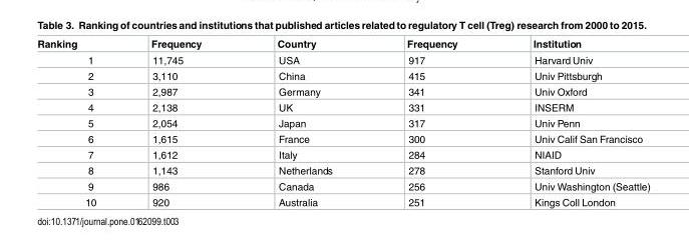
<table><thead><tr><td>Ranking</td><td>Frequency</td><td>Country</td><td>Frequency</td><td>Institution</td></tr></thead><tbody><tr><td>1</td><td>11,745</td><td>USA</td><td>917</td><td>Harvard Univ</td></tr><tr><td>2</td><td>3,110</td><td>China</td><td>415</td><td>Univ Pittsburgh</td></tr><tr><td>3</td><td>2,987</td><td>Germany</td><td>341</td><td>Univ Oxford</td></tr><tr><td>4</td><td>2,138</td><td>UK</td><td>331</td><td>INSERM</td></tr><tr><td>5</td><td>2,054</td><td>Japan</td><td>317</td><td>Univ Penn</td></tr><tr><td>6</td><td>1,615</td><td>France</td><td>300</td><td>Univ Calif San Francisco</td></tr><tr><td>7</td><td>1,612</td><td>Italy</td><td>284</td><td>NIAID</td></tr><tr><td>8</td><td>1,143</td><td>Netherlands</td><td>278</td><td>Stanford Univ</td></tr><tr><td>9</td><td>986</td><td>Canada</td><td>256</td><td>Univ Washington (Seattle)</td></tr><tr><td>10</td><td>920</td><td>Australia</td><td>251</td><td>Kings Coll London</td></tr></tbody></table>